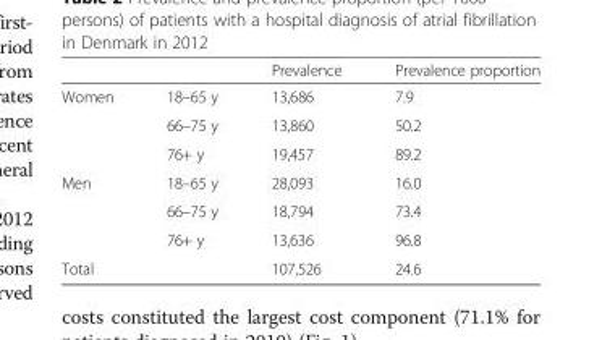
<table><thead><tr><td></td><td></td><td>Prevalence</td><td>Prevalence proportion</td></tr></thead><tbody><tr><td rowspan="3">Women</td><td>18–65 y</td><td>13,686</td><td>7.9</td></tr><tr><td>66–75 y</td><td>13,860</td><td>50.2</td></tr><tr><td>76+ y</td><td>19,457</td><td>89.2</td></tr><tr><td rowspan="3">Men</td><td>18–65 y</td><td>28,093</td><td>16.0</td></tr><tr><td>66–75 y</td><td>18,794</td><td>73.4</td></tr><tr><td>76+ y</td><td>13,636</td><td>96.8</td></tr><tr><td>Total</td><td></td><td>107,526</td><td>24.6</td></tr></tbody></table>